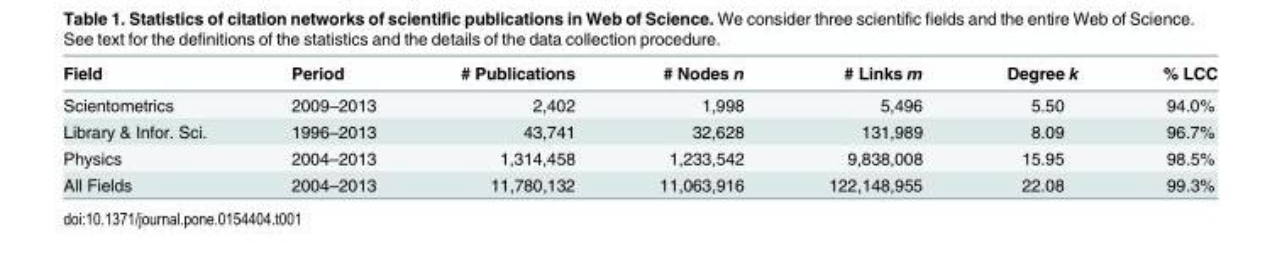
<table><thead><tr><td>Field</td><td>Period</td><td># Publications</td><td># Nodes n</td><td># Links m</td><td>Degree k</td><td>% LCC</td></tr></thead><tbody><tr><td>Scientometrics</td><td>2009–2013</td><td>2,402</td><td>1,998</td><td>5,496</td><td>5.50</td><td>94.0%</td></tr><tr><td>Library &amp; Infor. Sci.</td><td>1996–2013</td><td>43,741</td><td>32,628</td><td>131,989</td><td>8.09</td><td>96.7%</td></tr><tr><td>Physics</td><td>2004–2013</td><td>1,314,458</td><td>1,233,542</td><td>9,838,008</td><td>15.95</td><td>98.5%</td></tr><tr><td>All Fields</td><td>2004–2013</td><td>11,780,132</td><td>11,063,916</td><td>122,148,955</td><td>22.08</td><td>99.3%</td></tr></tbody></table>